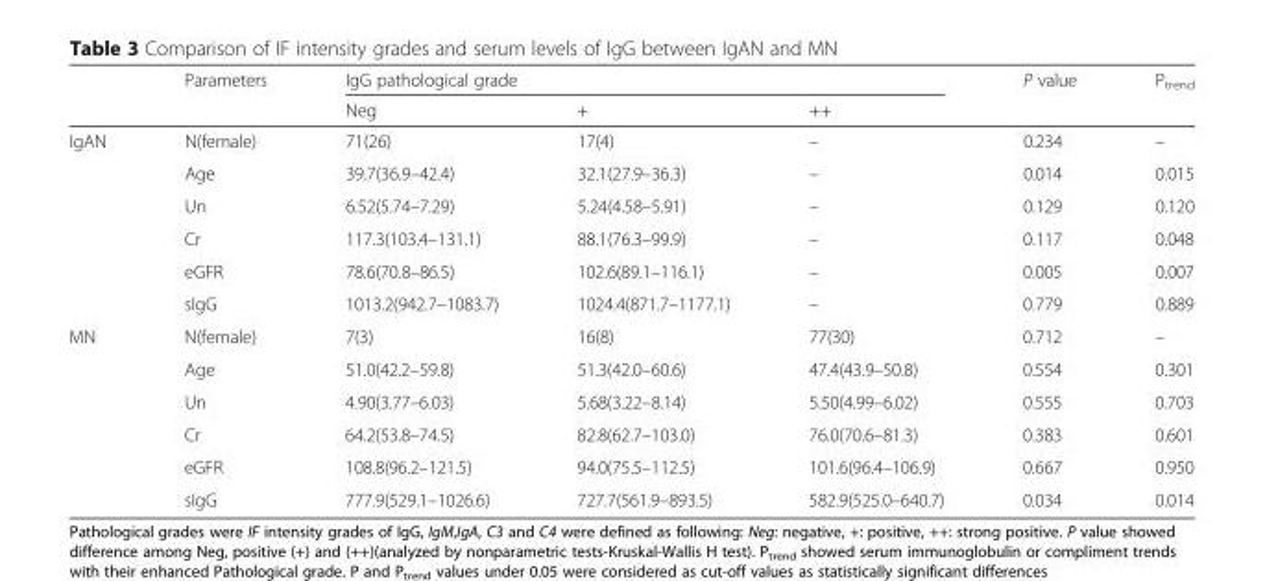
<table><thead><tr><td rowspan="2"></td><td rowspan="2">Parameters</td><td colspan="3">IgG pathological grade</td><td rowspan="2">P value</td><td rowspan="2">P<sub>trend</sub></td></tr><tr><td>Neg</td><td>+</td><td>++</td></tr></thead><tbody><tr><td rowspan="6">IgAN</td><td>N(female)</td><td>71(26)</td><td>17(4)</td><td>–</td><td>0.234</td><td>–</td></tr><tr><td>Age</td><td>39.7(36.9–42.4)</td><td>32.1(27.9–36.3)</td><td>–</td><td>0.014</td><td>0.015</td></tr><tr><td>Un</td><td>6.52(5.74–7.29)</td><td>5.24(4.58–5.91)</td><td>–</td><td>0.129</td><td>0.120</td></tr><tr><td>Cr</td><td>117.3(103.4–131.1)</td><td>88.1(76.3–99.9)</td><td>–</td><td>0.117</td><td>0.048</td></tr><tr><td>eGFR</td><td>78.6(70.8–86.5)</td><td>102.6(89.1–116.1)</td><td>–</td><td>0.005</td><td>0.007</td></tr><tr><td>sIgG</td><td>1013.2(942.7–1083.7)</td><td>1024.4(871.7–1177.1)</td><td>–</td><td>0.779</td><td>0.889</td></tr><tr><td rowspan="6">MN</td><td>N(female)</td><td>7(3)</td><td>16(8)</td><td>77(30)</td><td>0.712</td><td>–</td></tr><tr><td>Age</td><td>51.0(42.2–59.8)</td><td>51.3(42.0–60.6)</td><td>47.4(43.9–50.8)</td><td>0.554</td><td>0.301</td></tr><tr><td>Un</td><td>4.90(3.77–6.03)</td><td>5.68(3.22–8.14)</td><td>5.50(4.99–6.02)</td><td>0.555</td><td>0.703</td></tr><tr><td>Cr</td><td>64.2(53.8–74.5)</td><td>82.8(62.7–103.0)</td><td>76.0(70.6–81.3)</td><td>0.383</td><td>0.601</td></tr><tr><td>eGFR</td><td>108.8(96.2–121.5)</td><td>94.0(75.5–112.5)</td><td>101.6(96.4–106.9)</td><td>0.667</td><td>0.950</td></tr><tr><td>sIgG</td><td>777.9(529.1–1026.6)</td><td>727.7(561.9–893.5)</td><td>582.9(525.0–640.7)</td><td>0.034</td><td>0.014</td></tr></tbody></table>